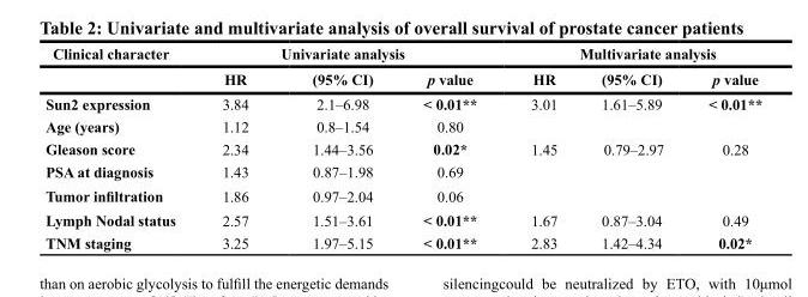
<table><thead><tr><td rowspan="2">Clinical character</td><td colspan="3">Univariate analysis</td><td colspan="3">Multivariate analysis</td></tr><tr><td>HR</td><td>(95% CI)</td><td>p value</td><td>HR</td><td>(95% CI)</td><td>p value</td></tr></thead><tbody><tr><td>Sun2 expression</td><td>3.84</td><td>2.1–6.98</td><td>&lt; 0.01**</td><td>3.01</td><td>1.61–5.89</td><td>&lt; 0.01**</td></tr><tr><td>Age (years)</td><td>1.12</td><td>0.8–1.54</td><td>0.80</td><td></td><td></td><td></td></tr><tr><td>Gleason score</td><td>2.34</td><td>1.44–3.56</td><td>0.02*</td><td>1.45</td><td>0.79–2.97</td><td>0.28</td></tr><tr><td>PSA at diagnosis</td><td>1.43</td><td>0.87–1.98</td><td>0.69</td><td></td><td></td><td></td></tr><tr><td>Tumor infiltration</td><td>1.86</td><td>0.97–2.04</td><td>0.06</td><td></td><td></td><td></td></tr><tr><td>Lymph Nodal status</td><td>2.57</td><td>1.51–3.61</td><td>&lt; 0.01**</td><td>1.67</td><td>0.87–3.04</td><td>0.49</td></tr><tr><td>TNM staging</td><td>3.25</td><td>1.97–5.15</td><td>&lt; 0.01**</td><td>2.83</td><td>1.42–4.34</td><td>0.02*</td></tr></tbody></table>